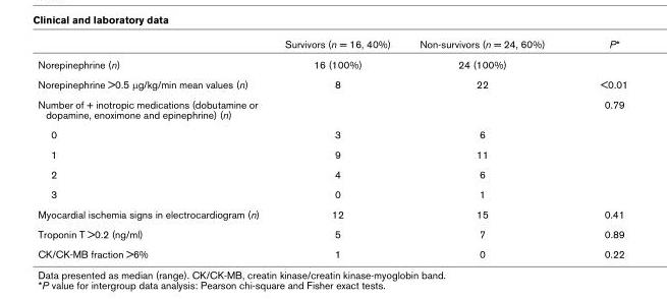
<table><thead><tr><td></td><td>Survivors (n = 16, 40%)</td><td>Non-survivors (n = 24, 60%)</td><td>P*</td></tr></thead><tbody><tr><td>Norepinephrine (n)</td><td>16 (100%)</td><td>24 (100%)</td><td></td></tr><tr><td>Norepinephrine &gt;0.5 µg/kg/min mean values (n)</td><td>8</td><td>22</td><td>&lt;0.01</td></tr><tr><td>Number of + inotropic medications (dobutamine or dopamine, enoximone and epinephrine) (n)</td><td></td><td></td><td>0.79</td></tr><tr><td>0</td><td>3</td><td>6</td><td></td></tr><tr><td>1</td><td>9</td><td>11</td><td></td></tr><tr><td>2</td><td>4</td><td>6</td><td></td></tr><tr><td>3</td><td>0</td><td>1</td><td></td></tr><tr><td>Myocardial ischemia signs in electrocardiogram (n)</td><td>12</td><td>15</td><td>0.41</td></tr><tr><td>Troponin T &gt;0.2 (ng/ml)</td><td>5</td><td>7</td><td>0.89</td></tr><tr><td>CK/CK-MB fraction &gt;6%</td><td>1</td><td>0</td><td>0.22</td></tr></tbody></table>